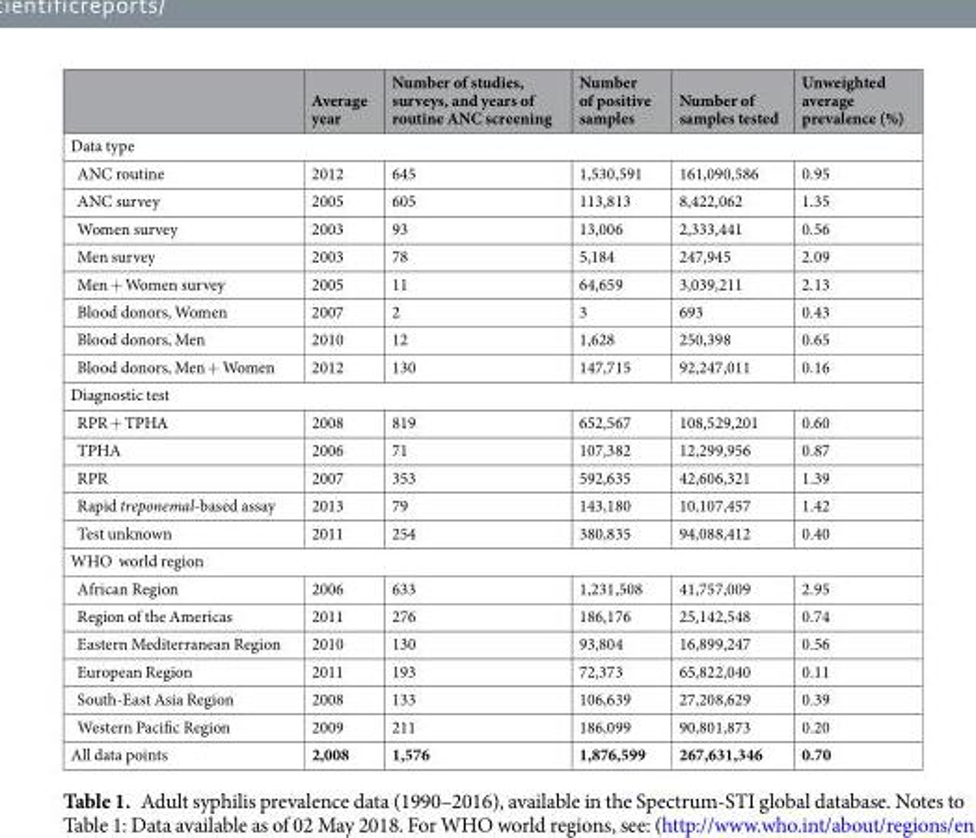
<table><thead><tr><td></td><td>Average year</td><td>Number of studies, surveys, and years of routine ANC screening</td><td>Number of positive samples</td><td>Number of samples tested</td><td>Unweighted average prevalence (%)</td></tr></thead><tbody><tr><td colspan="6">Data type</td></tr><tr><td>ANC routine</td><td>2012</td><td>645</td><td>1,530,591</td><td>161,090,586</td><td>0.95</td></tr><tr><td>ANC survey</td><td>2005</td><td>605</td><td>113,813</td><td>8,422,062</td><td>1.35</td></tr><tr><td>Women survey</td><td>2003</td><td>93</td><td>13,006</td><td>2,333,441</td><td>0.56</td></tr><tr><td>Men survey</td><td>2003</td><td>78</td><td>5,184</td><td>247,945</td><td>2.09</td></tr><tr><td>Men + Women survey</td><td>2005</td><td>11</td><td>64,659</td><td>3,039,211</td><td>2.13</td></tr><tr><td>Blood donors, Women</td><td>2007</td><td>2</td><td>3</td><td>693</td><td>0.43</td></tr><tr><td>Blood donors, Men</td><td>2010</td><td>12</td><td>1,628</td><td>250,398</td><td>0.65</td></tr><tr><td>Blood donors, Men + Women</td><td>2012</td><td>130</td><td>147,715</td><td>92,247,011</td><td>0.16</td></tr><tr><td colspan="6">Diagnostic test</td></tr><tr><td>RPR + TPHA</td><td>2008</td><td>819</td><td>652,567</td><td>108,529,201</td><td>0.60</td></tr><tr><td>TPHA</td><td>2006</td><td>71</td><td>107,382</td><td>12,299,956</td><td>0.87</td></tr><tr><td>RPR</td><td>2007</td><td>353</td><td>592,635</td><td>42,606,321</td><td>1.39</td></tr><tr><td>Rapid treponemal-based assay</td><td>2013</td><td>79</td><td>143,180</td><td>10,107,457</td><td>1.42</td></tr><tr><td>Test unknown</td><td>2011</td><td>254</td><td>380,835</td><td>94,088,412</td><td>0.40</td></tr><tr><td colspan="6">WHO world region</td></tr><tr><td>African Region</td><td>2006</td><td>633</td><td>1,231,508</td><td>41,757,009</td><td>2.95</td></tr><tr><td>Region of the Americas</td><td>2011</td><td>276</td><td>186,176</td><td>25,142,548</td><td>0.74</td></tr><tr><td>Eastern Mediterranean Region</td><td>2010</td><td>130</td><td>93,804</td><td>16,899,247</td><td>0.56</td></tr><tr><td>European Region</td><td>2011</td><td>193</td><td>72,373</td><td>65,822,040</td><td>0.11</td></tr><tr><td>South-East Asia Region</td><td>2008</td><td>133</td><td>106,639</td><td>27,208,629</td><td>0.39</td></tr><tr><td>Western Pacific Region</td><td>2009</td><td>211</td><td>186,099</td><td>90,801,873</td><td>0.20</td></tr><tr><td>All data points</td><td>2,008</td><td>1,576</td><td>1,876,599</td><td>267,631,346</td><td>0.70</td></tr></tbody></table>